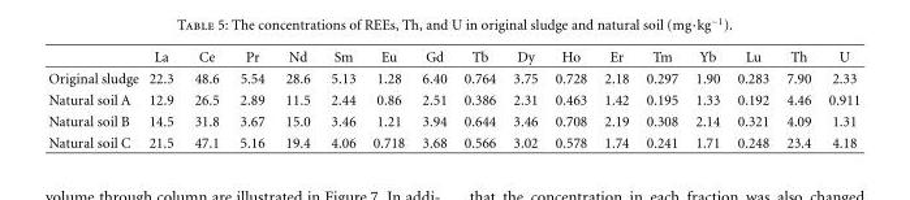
<table><thead><tr><td></td><td>La</td><td>Ce</td><td>Pr</td><td>Nd</td><td>Sm</td><td>Eu</td><td>Gd</td><td>Tb</td><td>Dy</td><td>Ho</td><td>Er</td><td>Tm</td><td>Yb</td><td>Lu</td><td>Th</td><td>U</td></tr></thead><tbody><tr><td>Original sludge</td><td>22.3</td><td>48.6</td><td>5.54</td><td>28.6</td><td>5.13</td><td>1.28</td><td>6.40</td><td>0.764</td><td>3.75</td><td>0.728</td><td>2.18</td><td>0.297</td><td>1.90</td><td>0.283</td><td>7.90</td><td>2.33</td></tr><tr><td>Natural soil A</td><td>12.9</td><td>26.5</td><td>2.89</td><td>11.5</td><td>2.44</td><td>0.86</td><td>2.51</td><td>0.386</td><td>2.31</td><td>0.463</td><td>1.42</td><td>0.195</td><td>1.33</td><td>0.192</td><td>4.46</td><td>0.911</td></tr><tr><td>Natural soil B</td><td>14.5</td><td>31.8</td><td>3.67</td><td>15.0</td><td>3.46</td><td>1.21</td><td>3.94</td><td>0.644</td><td>3.46</td><td>0.708</td><td>2.19</td><td>0.308</td><td>2.14</td><td>0.321</td><td>4.09</td><td>1.31</td></tr><tr><td>Natural soil C</td><td>21.5</td><td>47.1</td><td>5.16</td><td>19.4</td><td>4.06</td><td>0.718</td><td>3.68</td><td>0.566</td><td>3.02</td><td>0.578</td><td>1.74</td><td>0.241</td><td>1.71</td><td>0.248</td><td>23.4</td><td>4.18</td></tr></tbody></table>